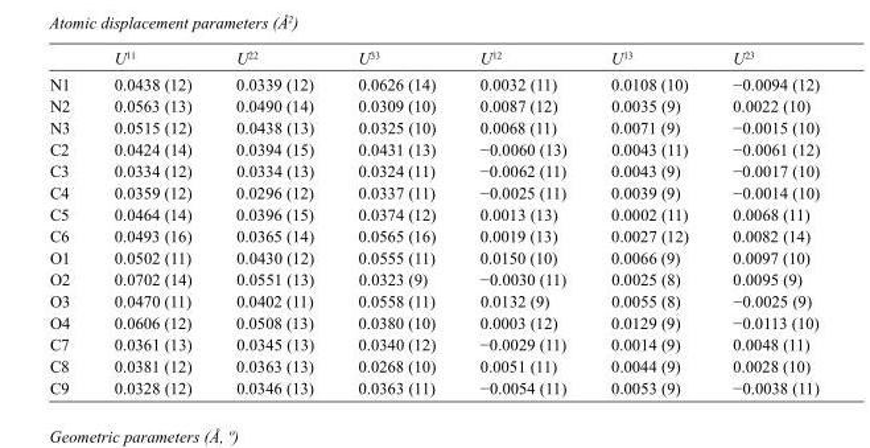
<table><thead><tr><td></td><td>U<sup>11</sup></td><td>U<sup>22</sup></td><td>U<sup>33</sup></td><td>U<sup>12</sup></td><td>U<sup>13</sup></td><td>U<sup>23</sup></td></tr></thead><tbody><tr><td>N1</td><td>0.0438 (12)</td><td>0.0339 (12)</td><td>0.0626 (14)</td><td>0.0032 (11)</td><td>0.0108 (10)</td><td>−0.0094 (12)</td></tr><tr><td>N2</td><td>0.0563 (13)</td><td>0.0490 (14)</td><td>0.0309 (10)</td><td>0.0087 (12)</td><td>0.0035 (9)</td><td>0.0022 (10)</td></tr><tr><td>N3</td><td>0.0515 (12)</td><td>0.0438 (13)</td><td>0.0325 (10)</td><td>0.0068 (11)</td><td>0.0071 (9)</td><td>−0.0015 (10)</td></tr><tr><td>C2</td><td>0.0424 (14)</td><td>0.0394 (15)</td><td>0.0431 (13)</td><td>−0.0060 (13)</td><td>0.0043 (11)</td><td>−0.0061 (12)</td></tr><tr><td>C3</td><td>0.0334 (12)</td><td>0.0334 (13)</td><td>0.0324 (11)</td><td>−0.0062 (11)</td><td>0.0043 (9)</td><td>−0.0017 (10)</td></tr><tr><td>C4</td><td>0.0359 (12)</td><td>0.0296 (12)</td><td>0.0337 (11)</td><td>−0.0025 (11)</td><td>0.0039 (9)</td><td>−0.0014 (10)</td></tr><tr><td>C5</td><td>0.0464 (14)</td><td>0.0396 (15)</td><td>0.0374 (12)</td><td>0.0013 (13)</td><td>0.0002 (11)</td><td>0.0068 (11)</td></tr><tr><td>C6</td><td>0.0493 (16)</td><td>0.0365 (14)</td><td>0.0565 (16)</td><td>0.0019 (13)</td><td>0.0027 (12)</td><td>0.0082 (14)</td></tr><tr><td>O1</td><td>0.0502 (11)</td><td>0.0430 (12)</td><td>0.0555 (11)</td><td>0.0150 (10)</td><td>0.0066 (9)</td><td>0.0097 (10)</td></tr><tr><td>O2</td><td>0.0702 (14)</td><td>0.0551 (13)</td><td>0.0323 (9)</td><td>−0.0030 (11)</td><td>0.0025 (8)</td><td>0.0095 (9)</td></tr><tr><td>O3</td><td>0.0470 (11)</td><td>0.0402 (11)</td><td>0.0558 (11)</td><td>0.0132 (9)</td><td>0.0055 (8)</td><td>−0.0025 (9)</td></tr><tr><td>O4</td><td>0.0606 (12)</td><td>0.0508 (13)</td><td>0.0380 (10)</td><td>0.0003 (12)</td><td>0.0129 (9)</td><td>−0.0113 (10)</td></tr><tr><td>C7</td><td>0.0361 (13)</td><td>0.0345 (13)</td><td>0.0340 (12)</td><td>−0.0029 (11)</td><td>0.0014 (9)</td><td>0.0048 (11)</td></tr><tr><td>C8</td><td>0.0381 (12)</td><td>0.0363 (13)</td><td>0.0268 (10)</td><td>0.0051 (11)</td><td>0.0044 (9)</td><td>0.0028 (10)</td></tr><tr><td>C9</td><td>0.0328 (12)</td><td>0.0346 (13)</td><td>0.0363 (11)</td><td>−0.0054 (11)</td><td>0.0053 (9)</td><td>−0.0038 (11)</td></tr></tbody></table>